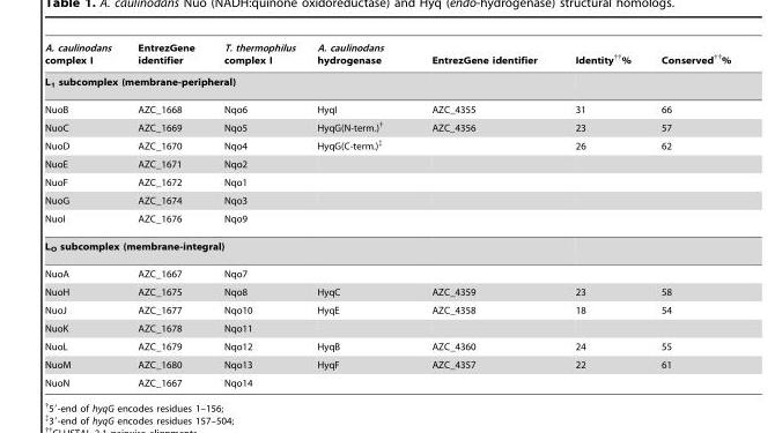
<table><thead><tr><td>A. caulinodans complex I</td><td>EntrezGene identifier</td><td>T. thermophilus complex I</td><td>A. caulinodans hydrogenase</td><td>EntrezGene identifier</td><td>Identity††%</td><td>Conserved††%</td></tr></thead><tbody><tr><td colspan="7">L<sub>1</sub> subcomplex (membrane-peripheral)</td></tr><tr><td>NuoB</td><td>AZC_1668</td><td>Nqo6</td><td>HyqI</td><td>AZC_4355</td><td>31</td><td>66</td></tr><tr><td>NuoC</td><td>AZC_1669</td><td>Nqo5</td><td>HyqG(N-term.)†</td><td>AZC_4356</td><td>23</td><td>57</td></tr><tr><td>NuoD</td><td>AZC_1670</td><td>Nqo4</td><td>HyqG(C-term.)‡</td><td></td><td>26</td><td>62</td></tr><tr><td>NuoE</td><td>AZC_1671</td><td>Nqo2</td><td></td><td></td><td></td><td></td></tr><tr><td>NuoF</td><td>AZC_1672</td><td>Nqo1</td><td></td><td></td><td></td><td></td></tr><tr><td>NuoG</td><td>AZC_1674</td><td>Nqo3</td><td></td><td></td><td></td><td></td></tr><tr><td>NuoI</td><td>AZC_1676</td><td>Nqo9</td><td></td><td></td><td></td><td></td></tr><tr><td colspan="7">L<sub>O</sub> subcomplex (membrane-integral)</td></tr><tr><td>NuoA</td><td>AZC_1667</td><td>Nqo7</td><td></td><td></td><td></td><td></td></tr><tr><td>NuoH</td><td>AZC_1675</td><td>Nqo8</td><td>HyqC</td><td>AZC_4359</td><td>23</td><td>58</td></tr><tr><td>NuoJ</td><td>AZC_1677</td><td>Nqo10</td><td>HyqE</td><td>AZC_4358</td><td>18</td><td>54</td></tr><tr><td>NuoK</td><td>AZC_1678</td><td>Nqo11</td><td></td><td></td><td></td><td></td></tr><tr><td>NuoL</td><td>AZC_1679</td><td>Nqo12</td><td>HyqB</td><td>AZC_4360</td><td>24</td><td>55</td></tr><tr><td>NuoM</td><td>AZC_1680</td><td>Nqo13</td><td>HyqF</td><td>AZC_4357</td><td>22</td><td>61</td></tr><tr><td>NuoN</td><td>AZC_1667</td><td>Nqo14</td><td></td><td></td><td></td><td></td></tr></tbody></table>